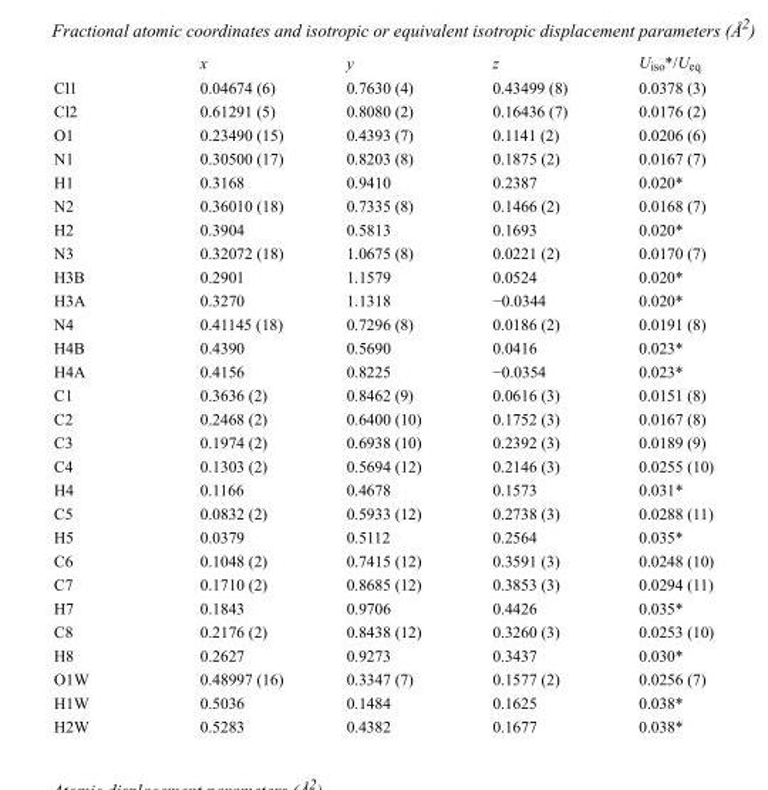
<table><thead><tr><td></td><td>x</td><td>y</td><td>z</td><td>U<sub>iso</sub>*/U<sub>eq</sub></td></tr></thead><tbody><tr><td>Cl1</td><td>0.04674 (6)</td><td>0.7630 (4)</td><td>0.43499 (8)</td><td>0.0378 (3)</td></tr><tr><td>Cl2</td><td>0.61291 (5)</td><td>0.8080 (2)</td><td>0.16436 (7)</td><td>0.0176 (2)</td></tr><tr><td>O1</td><td>0.23490 (15)</td><td>0.4393 (7)</td><td>0.1141 (2)</td><td>0.0206 (6)</td></tr><tr><td>N1</td><td>0.30500 (17)</td><td>0.8203 (8)</td><td>0.1875 (2)</td><td>0.0167 (7)</td></tr><tr><td>H1</td><td>0.3168</td><td>0.9410</td><td>0.2387</td><td>0.020*</td></tr><tr><td>N2</td><td>0.36010 (18)</td><td>0.7335 (8)</td><td>0.1466 (2)</td><td>0.0168 (7)</td></tr><tr><td>H2</td><td>0.3904</td><td>0.5813</td><td>0.1693</td><td>0.020*</td></tr><tr><td>N3</td><td>0.32072 (18)</td><td>1.0675 (8)</td><td>0.0221 (2)</td><td>0.0170 (7)</td></tr><tr><td>H3B</td><td>0.2901</td><td>1.1579</td><td>0.0524</td><td>0.020*</td></tr><tr><td>H3A</td><td>0.3270</td><td>1.1318</td><td>−0.0344</td><td>0.020*</td></tr><tr><td>N4</td><td>0.41145 (18)</td><td>0.7296 (8)</td><td>0.0186 (2)</td><td>0.0191 (8)</td></tr><tr><td>H4B</td><td>0.4390</td><td>0.5690</td><td>0.0416</td><td>0.023*</td></tr><tr><td>H4A</td><td>0.4156</td><td>0.8225</td><td>−0.0354</td><td>0.023*</td></tr><tr><td>C1</td><td>0.3636 (2)</td><td>0.8462 (9)</td><td>0.0616 (3)</td><td>0.0151 (8)</td></tr><tr><td>C2</td><td>0.2468 (2)</td><td>0.6400 (10)</td><td>0.1752 (3)</td><td>0.0167 (8)</td></tr><tr><td>C3</td><td>0.1974 (2)</td><td>0.6938 (10)</td><td>0.2392 (3)</td><td>0.0189 (9)</td></tr><tr><td>C4</td><td>0.1303 (2)</td><td>0.5694 (12)</td><td>0.2146 (3)</td><td>0.0255 (10)</td></tr><tr><td>H4</td><td>0.1166</td><td>0.4678</td><td>0.1573</td><td>0.031*</td></tr><tr><td>C5</td><td>0.0832 (2)</td><td>0.5933 (12)</td><td>0.2738 (3)</td><td>0.0288 (11)</td></tr><tr><td>H5</td><td>0.0379</td><td>0.5112</td><td>0.2564</td><td>0.035*</td></tr><tr><td>C6</td><td>0.1048 (2)</td><td>0.7415 (12)</td><td>0.3591 (3)</td><td>0.0248 (10)</td></tr><tr><td>C7</td><td>0.1710 (2)</td><td>0.8685 (12)</td><td>0.3853 (3)</td><td>0.0294 (11)</td></tr><tr><td>H7</td><td>0.1843</td><td>0.9706</td><td>0.4426</td><td>0.035*</td></tr><tr><td>C8</td><td>0.2176 (2)</td><td>0.8438 (12)</td><td>0.3260 (3)</td><td>0.0253 (10)</td></tr><tr><td>H8</td><td>0.2627</td><td>0.9273</td><td>0.3437</td><td>0.030*</td></tr><tr><td>O1W</td><td>0.48997 (16)</td><td>0.3347 (7)</td><td>0.1577 (2)</td><td>0.0256 (7)</td></tr><tr><td>H1W</td><td>0.5036</td><td>0.1484</td><td>0.1625</td><td>0.038*</td></tr><tr><td>H2W</td><td>0.5283</td><td>0.4382</td><td>0.1677</td><td>0.038*</td></tr></tbody></table>